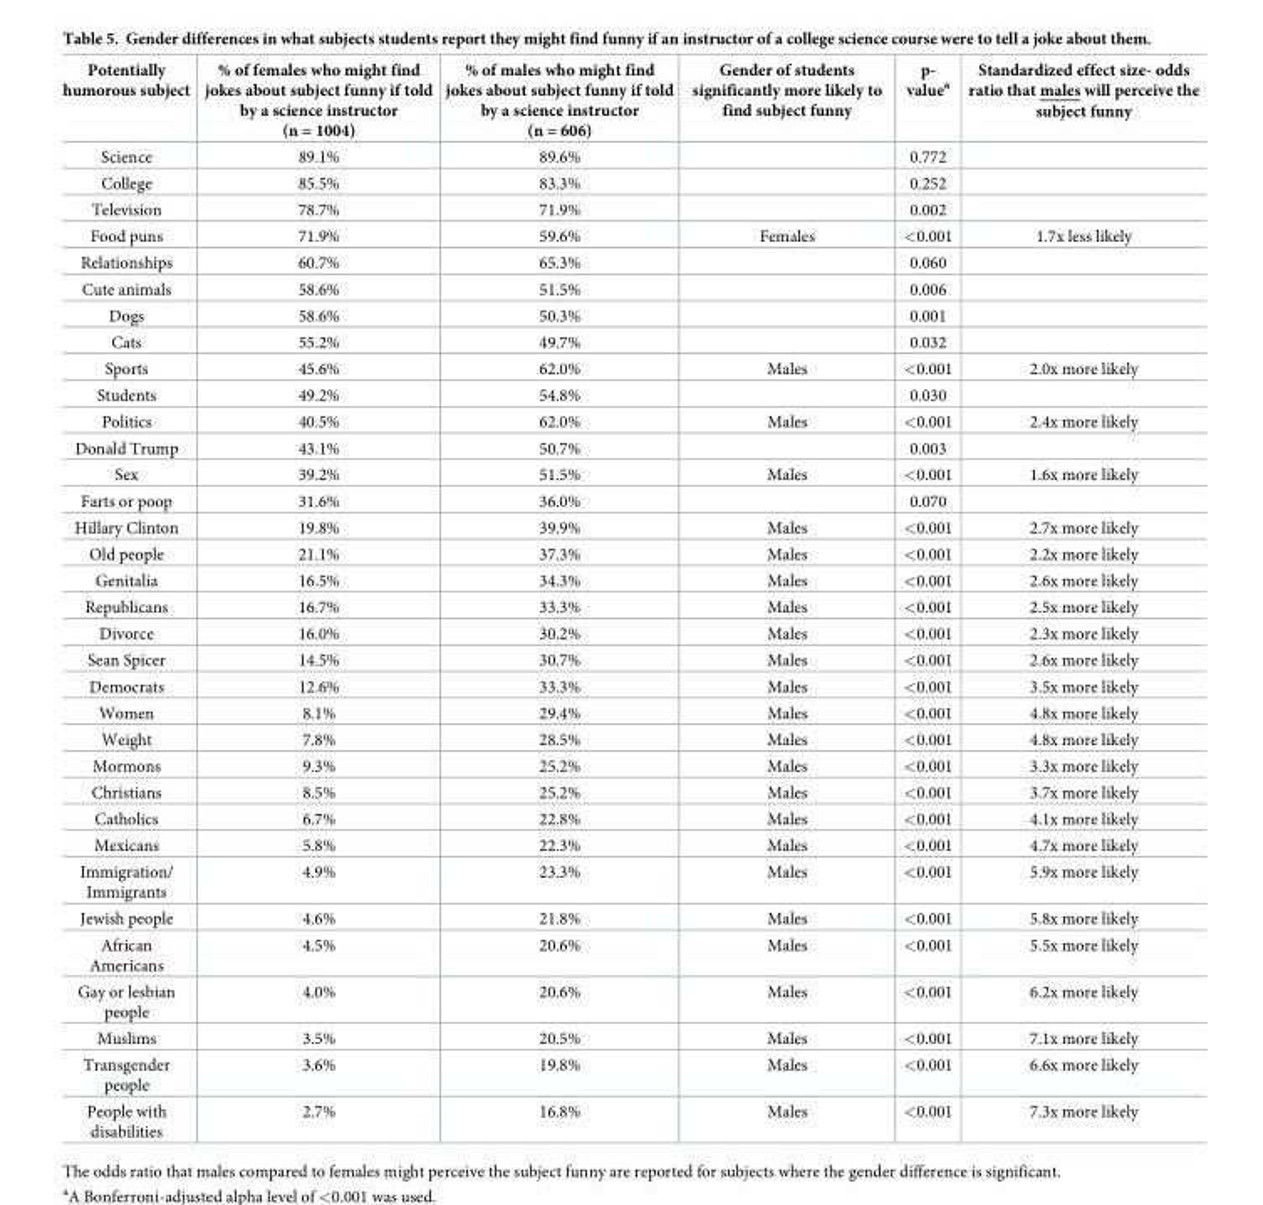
<table><thead><tr><td>Potentially humorous subject</td><td>% of females who might find jokes about subject funny if told by a science instructor (n = 1004)</td><td>% of males who might find jokes about subject funny if told by a science instructor (n = 606)</td><td>Gender of students significantly more likely to find subject funny</td><td>p- value<sup>a</sup></td><td>Standardized effect size- odds ratio that males will perceive the subject funny</td></tr></thead><tbody><tr><td>Science</td><td>89.1%</td><td>89.6%</td><td></td><td>0.772</td><td></td></tr><tr><td>College</td><td>85.5%</td><td>83.3%</td><td></td><td>0.252</td><td></td></tr><tr><td>Television</td><td>78.7%</td><td>71.9%</td><td></td><td>0.002</td><td></td></tr><tr><td>Food puns</td><td>71.9%</td><td>59.6%</td><td>Females</td><td>&lt;0.001</td><td>1.7x less likely</td></tr><tr><td>Relationships</td><td>60.7%</td><td>65.3%</td><td></td><td>0.060</td><td></td></tr><tr><td>Cute animals</td><td>58.6%</td><td>51.5%</td><td></td><td>0.006</td><td></td></tr><tr><td>Dogs</td><td>58.6%</td><td>50.3%</td><td></td><td>0.001</td><td></td></tr><tr><td>Cats</td><td>55.2%</td><td>49.7%</td><td></td><td>0.032</td><td></td></tr><tr><td>Sports</td><td>45.6%</td><td>62.0%</td><td>Males</td><td>&lt;0.001</td><td>2.0x more likely</td></tr><tr><td>Students</td><td>49.2%</td><td>54.8%</td><td></td><td>0.030</td><td></td></tr><tr><td>Politics</td><td>40.5%</td><td>62.0%</td><td>Males</td><td>&lt;0.001</td><td>2.4x more likely</td></tr><tr><td>Donald Trump</td><td>43.1%</td><td>50.7%</td><td></td><td>0.003</td><td></td></tr><tr><td>Sex</td><td>39.2%</td><td>51.5%</td><td>Males</td><td>&lt;0.001</td><td>1.6x more likely</td></tr><tr><td>Farts or poop</td><td>31.6%</td><td>36.0%</td><td></td><td>0.070</td><td></td></tr><tr><td>Hillary Clinton</td><td>19.8%</td><td>39.9%</td><td>Males</td><td>&lt;0.001</td><td>2.7x more likely</td></tr><tr><td>Old people</td><td>21.1%</td><td>37.3%</td><td>Males</td><td>&lt;0.001</td><td>2.2x more likely</td></tr><tr><td>Genitalia</td><td>16.5%</td><td>34.3%</td><td>Males</td><td>&lt;0.001</td><td>2.6x more likely</td></tr><tr><td>Republicans</td><td>16.7%</td><td>33.3%</td><td>Males</td><td>&lt;0.001</td><td>2.5x more likely</td></tr><tr><td>Divorce</td><td>16.0%</td><td>30.2%</td><td>Males</td><td>&lt;0.001</td><td>2.3x more likely</td></tr><tr><td>Sean Spicer</td><td>14.5%</td><td>30.7%</td><td>Males</td><td>&lt;0.001</td><td>2.6x more likely</td></tr><tr><td>Democrats</td><td>12.6%</td><td>33.3%</td><td>Males</td><td>&lt;0.001</td><td>3.5x more likely</td></tr><tr><td>Women</td><td>8.1%</td><td>29.4%</td><td>Males</td><td>&lt;0.001</td><td>4.8x more likely</td></tr><tr><td>Weight</td><td>7.8%</td><td>28.5%</td><td>Males</td><td>&lt;0.001</td><td>4.8x more likely</td></tr><tr><td>Mormons</td><td>9.3%</td><td>25.2%</td><td>Males</td><td>&lt;0.001</td><td>3.3x more likely</td></tr><tr><td>Christians</td><td>8.5%</td><td>25.2%</td><td>Males</td><td>&lt;0.001</td><td>3.7x more likely</td></tr><tr><td>Catholics</td><td>6.7%</td><td>22.8%</td><td>Males</td><td>&lt;0.001</td><td>4.1x more likely</td></tr><tr><td>Mexicans</td><td>5.8%</td><td>22.3%</td><td>Males</td><td>&lt;0.001</td><td>4.7x more likely</td></tr><tr><td>Immigration/ Immigrants</td><td>4.9%</td><td>23.3%</td><td>Males</td><td>&lt;0.001</td><td>5.9x more likely</td></tr><tr><td>Jewish people</td><td>4.6%</td><td>21.8%</td><td>Males</td><td>&lt;0.001</td><td>5.8x more likely</td></tr><tr><td>African Americans</td><td>4.5%</td><td>20.6%</td><td>Males</td><td>&lt;0.001</td><td>5.5x more likely</td></tr><tr><td>Gay or lesbian people</td><td>4.0%</td><td>20.6%</td><td>Males</td><td>&lt;0.001</td><td>6.2x more likely</td></tr><tr><td>Muslims</td><td>3.5%</td><td>20.5%</td><td>Males</td><td>&lt;0.001</td><td>7.1x more likely</td></tr><tr><td>Transgender people</td><td>3.6%</td><td>19.8%</td><td>Males</td><td>&lt;0.001</td><td>6.6x more likely</td></tr><tr><td>People with disabilities</td><td>2.7%</td><td>16.8%</td><td>Males</td><td>&lt;0.001</td><td>7.3x more likely</td></tr></tbody></table>